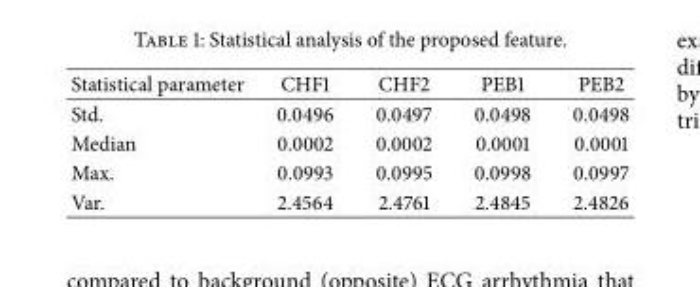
<table><thead><tr><td>Statistical parameter</td><td>CHF1</td><td>CHF2</td><td>PEB1</td><td>PEB2</td></tr></thead><tbody><tr><td>Std.</td><td>0.0496</td><td>0.0497</td><td>0.0498</td><td>0.0498</td></tr><tr><td>Median</td><td>0.0002</td><td>0.0002</td><td>0.0001</td><td>0.0001</td></tr><tr><td>Max.</td><td>0.0993</td><td>0.0995</td><td>0.0998</td><td>0.0997</td></tr><tr><td>Var.</td><td>2.4564</td><td>2.4761</td><td>2.4845</td><td>2.4826</td></tr></tbody></table>